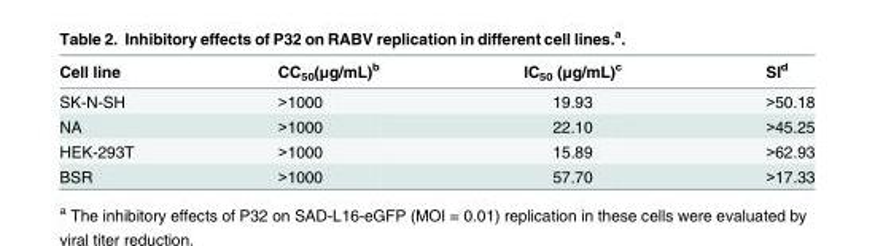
<table><thead><tr><td>Cell line</td><td>CC<sub>50</sub>(μg/mL)<sup>b</sup></td><td>IC<sub>50</sub> (μg/mL)<sup>c</sup></td><td>SI<sup>d</sup></td></tr></thead><tbody><tr><td>SK-N-SH</td><td>&gt;1000</td><td>19.93</td><td>&gt;50.18</td></tr><tr><td>NA</td><td>&gt;1000</td><td>22.10</td><td>&gt;45.25</td></tr><tr><td>HEK-293T</td><td>&gt;1000</td><td>15.89</td><td>&gt;62.93</td></tr><tr><td>BSR</td><td>&gt;1000</td><td>57.70</td><td>&gt;17.33</td></tr></tbody></table>